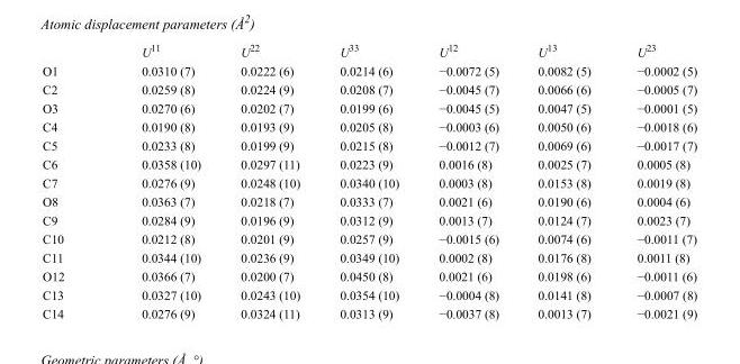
<table><thead><tr><td></td><td>U<sup>11</sup></td><td>U<sup>22</sup></td><td>U<sup>33</sup></td><td>U<sup>12</sup></td><td>U<sup>13</sup></td><td>U<sup>23</sup></td></tr></thead><tbody><tr><td>O1</td><td>0.0310 (7)</td><td>0.0222 (6)</td><td>0.0214 (6)</td><td>−0.0072 (5)</td><td>0.0082 (5)</td><td>−0.0002 (5)</td></tr><tr><td>C2</td><td>0.0259 (8)</td><td>0.0224 (9)</td><td>0.0208 (7)</td><td>−0.0045 (7)</td><td>0.0066 (6)</td><td>−0.0005 (7)</td></tr><tr><td>O3</td><td>0.0270 (6)</td><td>0.0202 (7)</td><td>0.0199 (6)</td><td>−0.0045 (5)</td><td>0.0047 (5)</td><td>−0.0001 (5)</td></tr><tr><td>C4</td><td>0.0190 (8)</td><td>0.0193 (9)</td><td>0.0205 (8)</td><td>−0.0003 (6)</td><td>0.0050 (6)</td><td>−0.0018 (6)</td></tr><tr><td>C5</td><td>0.0233 (8)</td><td>0.0199 (9)</td><td>0.0215 (8)</td><td>−0.0012 (7)</td><td>0.0069 (6)</td><td>−0.0017 (7)</td></tr><tr><td>C6</td><td>0.0358 (10)</td><td>0.0297 (11)</td><td>0.0223 (9)</td><td>0.0016 (8)</td><td>0.0025 (7)</td><td>0.0005 (8)</td></tr><tr><td>C7</td><td>0.0276 (9)</td><td>0.0248 (10)</td><td>0.0340 (10)</td><td>0.0003 (8)</td><td>0.0153 (8)</td><td>0.0019 (8)</td></tr><tr><td>O8</td><td>0.0363 (7)</td><td>0.0218 (7)</td><td>0.0333 (7)</td><td>0.0021 (6)</td><td>0.0190 (6)</td><td>0.0004 (6)</td></tr><tr><td>C9</td><td>0.0284 (9)</td><td>0.0196 (9)</td><td>0.0312 (9)</td><td>0.0013 (7)</td><td>0.0124 (7)</td><td>0.0023 (7)</td></tr><tr><td>C10</td><td>0.0212 (8)</td><td>0.0201 (9)</td><td>0.0257 (9)</td><td>−0.0015 (6)</td><td>0.0074 (6)</td><td>−0.0011 (7)</td></tr><tr><td>C11</td><td>0.0344 (10)</td><td>0.0236 (9)</td><td>0.0349 (10)</td><td>0.0002 (8)</td><td>0.0176 (8)</td><td>0.0011 (8)</td></tr><tr><td>O12</td><td>0.0366 (7)</td><td>0.0200 (7)</td><td>0.0450 (8)</td><td>0.0021 (6)</td><td>0.0198 (6)</td><td>−0.0011 (6)</td></tr><tr><td>C13</td><td>0.0327 (10)</td><td>0.0243 (10)</td><td>0.0354 (10)</td><td>−0.0004 (8)</td><td>0.0141 (8)</td><td>−0.0007 (8)</td></tr><tr><td>C14</td><td>0.0276 (9)</td><td>0.0324 (11)</td><td>0.0313 (9)</td><td>−0.0037 (8)</td><td>0.0013 (7)</td><td>−0.0021 (9)</td></tr></tbody></table>